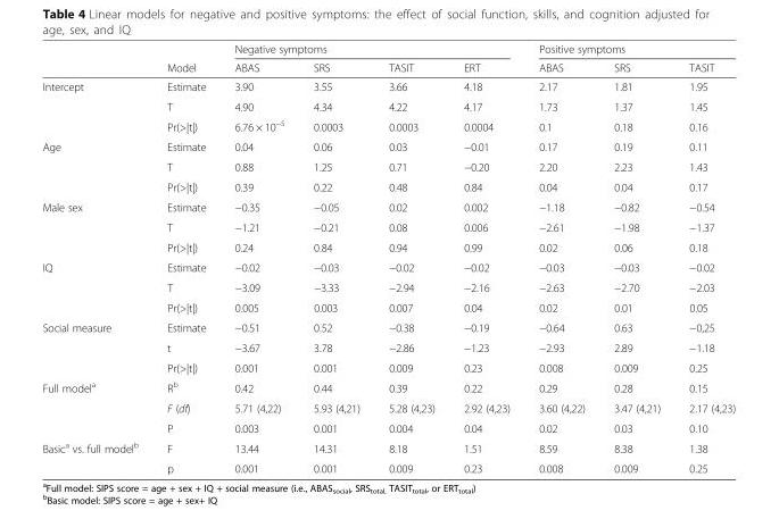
<table><thead><tr><td rowspan="2"></td><td rowspan="2">Model</td><td colspan="4">Negative symptoms</td><td colspan="3">Positive symptoms</td></tr><tr><td>ABAS</td><td>SRS</td><td>TASIT</td><td>ERT</td><td>ABAS</td><td>SRS</td><td>TASIT</td></tr></thead><tbody><tr><td rowspan="3">Intercept</td><td>Estimate</td><td>3.90</td><td>3.55</td><td>3.66</td><td>4.18</td><td>2.17</td><td>1.81</td><td>1.95</td></tr><tr><td>T</td><td>4.90</td><td>4.34</td><td>4.22</td><td>4.17</td><td>1.73</td><td>1.37</td><td>1.45</td></tr><tr><td>Pr(&gt;|t|)</td><td>6.76 × 10<sup>−5</sup></td><td>0.0003</td><td>0.0003</td><td>0.0004</td><td>0.1</td><td>0.18</td><td>0.16</td></tr><tr><td rowspan="3">Age</td><td>Estimate</td><td>0.04</td><td>0.06</td><td>0.03</td><td>−0.01</td><td>0.17</td><td>0.19</td><td>0.11</td></tr><tr><td>T</td><td>0.88</td><td>1.25</td><td>0.71</td><td>−0.20</td><td>2.20</td><td>2.23</td><td>1.43</td></tr><tr><td>Pr(&gt;|t|)</td><td>0.39</td><td>0.22</td><td>0.48</td><td>0.84</td><td>0.04</td><td>0.04</td><td>0.17</td></tr><tr><td rowspan="3">Male sex</td><td>Estimate</td><td>−0.35</td><td>−0.05</td><td>0.02</td><td>0.002</td><td>−1.18</td><td>−0.82</td><td>−0.54</td></tr><tr><td>T</td><td>−1.21</td><td>−0.21</td><td>0.08</td><td>0.006</td><td>−2.61</td><td>−1.98</td><td>−1.37</td></tr><tr><td>Pr(&gt;|t|)</td><td>0.24</td><td>0.84</td><td>0.94</td><td>0.99</td><td>0.02</td><td>0.06</td><td>0.18</td></tr><tr><td rowspan="3">IQ</td><td>Estimate</td><td>−0.02</td><td>−0.03</td><td>−0.02</td><td>−0.02</td><td>−0.03</td><td>−0.03</td><td>−0.02</td></tr><tr><td>T</td><td>−3.09</td><td>−3.33</td><td>−2.94</td><td>−2.16</td><td>−2.63</td><td>−2.70</td><td>−2.03</td></tr><tr><td>Pr(&gt;|t|)</td><td>0.005</td><td>0.003</td><td>0.007</td><td>0.04</td><td>0.02</td><td>0.01</td><td>0.05</td></tr><tr><td rowspan="3">Social measure</td><td>Estimate</td><td>−0.51</td><td>0.52</td><td>−0.38</td><td>−0.19</td><td>−0.64</td><td>0.63</td><td>−0,25</td></tr><tr><td>t</td><td>−3.67</td><td>3.78</td><td>−2.86</td><td>−1.23</td><td>−2.93</td><td>2.89</td><td>−1.18</td></tr><tr><td>Pr(&gt;|t|)</td><td>0.001</td><td>0.001</td><td>0.009</td><td>0.23</td><td>0.008</td><td>0.009</td><td>0.25</td></tr><tr><td rowspan="3">Full model<sup>a</sup></td><td>R<sup>b</sup></td><td>0.42</td><td>0.44</td><td>0.39</td><td>0.22</td><td>0.29</td><td>0.28</td><td>0.15</td></tr><tr><td>F (df)</td><td>5.71 (4,22)</td><td>5.93 (4,21)</td><td>5.28 (4,23)</td><td>2.92 (4,23)</td><td>3.60 (4,22)</td><td>3.47 (4,21)</td><td>2.17 (4,23)</td></tr><tr><td>P</td><td>0.003</td><td>0.001</td><td>0.004</td><td>0.04</td><td>0.02</td><td>0.03</td><td>0.10</td></tr><tr><td rowspan="2">Basic<sup>a</sup> vs. full model<sup>b</sup></td><td>F</td><td>13.44</td><td>14.31</td><td>8.18</td><td>1.51</td><td>8.59</td><td>8.38</td><td>1.38</td></tr><tr><td>p</td><td>0.001</td><td>0.001</td><td>0.009</td><td>0.23</td><td>0.008</td><td>0.009</td><td>0.25</td></tr></tbody></table>